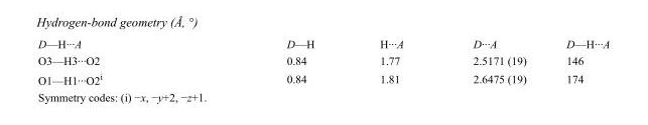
<table><tbody><tr><td>D—H···A</td><td>D—H</td><td>H···A</td><td>D···A</td><td>D—H···A</td></tr><tr><td>O3—H3···O2</td><td>0.84</td><td>1.77</td><td>2.5171 (19)</td><td>146</td></tr><tr><td>O1—H1···O2<sup>i</sup></td><td>0.84</td><td>1.81</td><td>2.6475 (19)</td><td>174</td></tr></tbody></table>